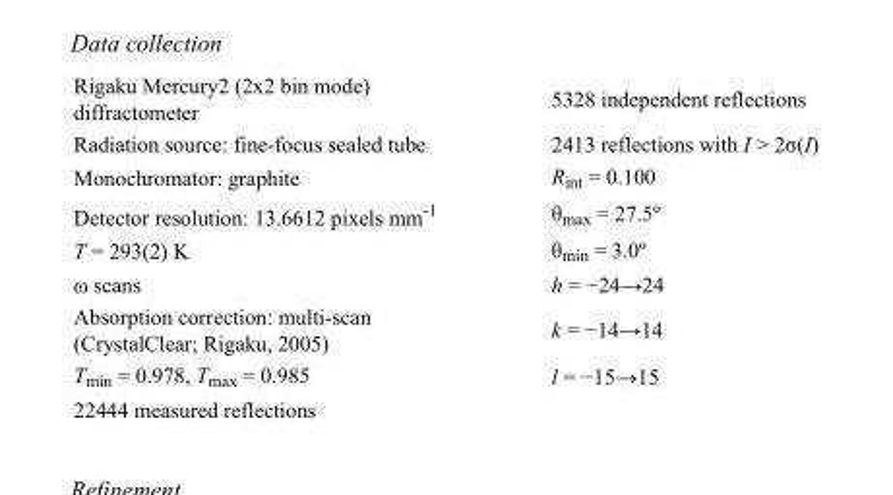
<table><tbody><tr><td>Rigaku Mercury2 (2x2 bin mode) diffractometer</td><td>5328 independent reflections</td></tr><tr><td>Radiation source: fine-focus sealed tube</td><td>2413 reflections with I &gt; 2σ(I)</td></tr><tr><td>Monochromator: graphite</td><td>R<sub>int</sub> = 0.100</td></tr><tr><td>Detector resolution: 13.6612 pixels mm<sup>-1</sup></td><td>θ<sub>max</sub> = 27.5º</td></tr><tr><td>T = 293(2) K</td><td>θ<sub>min</sub> = 3.0º</td></tr><tr><td>ω scans</td><td>h = −24→24</td></tr><tr><td>Absorption correction: multi-scan (CrystalClear; Rigaku, 2005)</td><td>k = −14→14</td></tr><tr><td>T<sub>min</sub> = 0.978, T<sub>max</sub> = 0.985</td><td>l = −15→15</td></tr><tr><td>22444 measured reflections</td><td></td></tr></tbody></table>